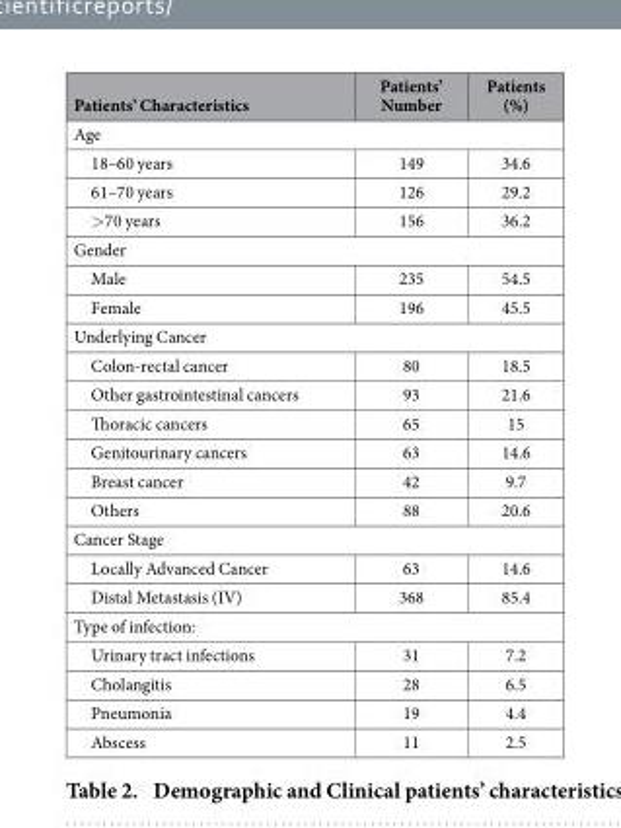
<table><thead><tr><td>Patients’ Characteristics</td><td>Patients’ Number</td><td>Patients (%)</td></tr></thead><tbody><tr><td colspan="3">Age</td></tr><tr><td>18–60 years</td><td>149</td><td>34.6</td></tr><tr><td>61–70 years</td><td>126</td><td>29.2</td></tr><tr><td>&gt; 70 years</td><td>156</td><td>36.2</td></tr><tr><td colspan="3">Gender</td></tr><tr><td>Male</td><td>235</td><td>54.5</td></tr><tr><td>Female</td><td>196</td><td>45.5</td></tr><tr><td colspan="3">Underlying Cancer</td></tr><tr><td>Colon-rectal cancer</td><td>80</td><td>18.5</td></tr><tr><td>Other gastrointestinal cancers</td><td>93</td><td>21.6</td></tr><tr><td>Thoracic cancers</td><td>65</td><td>15</td></tr><tr><td>Genitourinary cancers</td><td>63</td><td>14.6</td></tr><tr><td>Breast cancer</td><td>42</td><td>9.7</td></tr><tr><td>Others</td><td>88</td><td>20.6</td></tr><tr><td colspan="3">Cancer Stage</td></tr><tr><td>Locally Advanced Cancer</td><td>63</td><td>14.6</td></tr><tr><td>Distal Metastasis (IV)</td><td>368</td><td>85.4</td></tr><tr><td colspan="3">Type of infection:</td></tr><tr><td>Urinary tract infections</td><td>31</td><td>7.2</td></tr><tr><td>Cholangitis</td><td>28</td><td>6.5</td></tr><tr><td>Pneumonia</td><td>19</td><td>4.4</td></tr><tr><td>Abscess</td><td>11</td><td>2.5</td></tr></tbody></table>